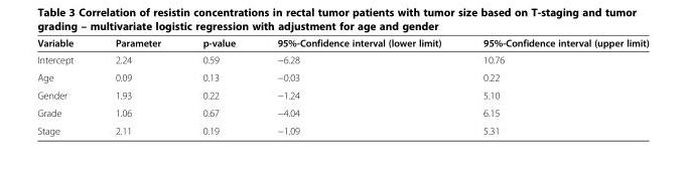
<table><thead><tr><td>Variable</td><td>Parameter</td><td>p-value</td><td>95%-Confidence interval (lower limit)</td><td>95%-Confidence interval (upper limit)</td></tr></thead><tbody><tr><td>Intercept</td><td>2.24</td><td>0.59</td><td>−6.28</td><td>10.76</td></tr><tr><td>Age</td><td>0.09</td><td>0.13</td><td>−0.03</td><td>0.22</td></tr><tr><td>Gender</td><td>1.93</td><td>0.22</td><td>−1.24</td><td>5.10</td></tr><tr><td>Grade</td><td>1.06</td><td>0.67</td><td>−4.04</td><td>6.15</td></tr><tr><td>Stage</td><td>2.11</td><td>0.19</td><td>−1.09</td><td>5.31</td></tr></tbody></table>